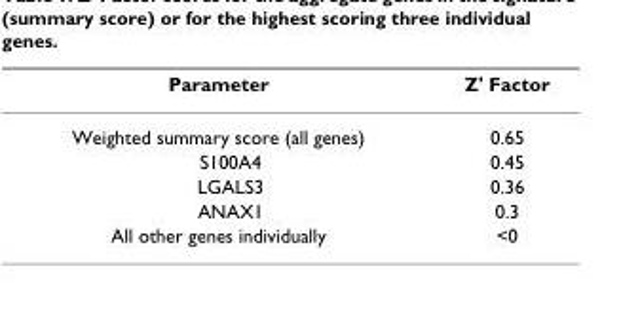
<table><thead><tr><td>Parameter</td><td>Z&#x27; Factor</td></tr></thead><tbody><tr><td>Weighted summary score (all genes)</td><td>0.65</td></tr><tr><td>S100A4</td><td>0.45</td></tr><tr><td>LGALS3</td><td>0.36</td></tr><tr><td>ANAX1</td><td>0.3</td></tr><tr><td>All other genes individually</td><td>&lt;0</td></tr></tbody></table>